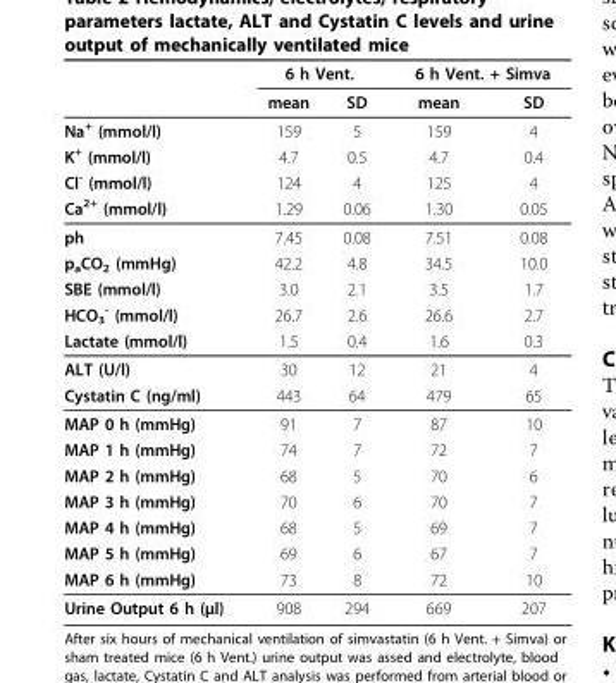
<table><thead><tr><td rowspan="2"></td><td colspan="2">6 h Vent.</td><td colspan="2">6 h Vent. + Simva</td></tr><tr><td>mean</td><td>SD</td><td>mean</td><td>SD</td></tr></thead><tbody><tr><td>Na<sup>+</sup> (mmol/l)</td><td>159</td><td>5</td><td>159</td><td>4</td></tr><tr><td>K<sup>+</sup> (mmol/l)</td><td>4.7</td><td>0.5</td><td>4.7</td><td>0.4</td></tr><tr><td>Cl<sup>-</sup> (mmol/l)</td><td>124</td><td>4</td><td>125</td><td>4</td></tr><tr><td>Ca<sup>2+</sup> (mmol/l)</td><td>1.29</td><td>0.06</td><td>1.30</td><td>0.05</td></tr><tr><td>ph</td><td>7.45</td><td>0.08</td><td>7.51</td><td>0.08</td></tr><tr><td>p<sub>a</sub>CO<sub>2</sub> (mmHg)</td><td>42.2</td><td>4.8</td><td>34.5</td><td>10.0</td></tr><tr><td>SBE (mmol/l)</td><td>3.0</td><td>2.1</td><td>3.5</td><td>1.7</td></tr><tr><td>HCO<sub>3</sub> <sup>-</sup> (mmol/l)</td><td>26.7</td><td>2.6</td><td>26.6</td><td>2.7</td></tr><tr><td>Lactate (mmol/l)</td><td>1.5</td><td>0.4</td><td>1.6</td><td>0.3</td></tr><tr><td>ALT (U/l)</td><td>30</td><td>12</td><td>21</td><td>4</td></tr><tr><td>Cystatin C (ng/ml)</td><td>443</td><td>64</td><td>479</td><td>65</td></tr><tr><td>MAP 0 h (mmHg)</td><td>91</td><td>7</td><td>87</td><td>10</td></tr><tr><td>MAP 1 h (mmHg)</td><td>74</td><td>7</td><td>72</td><td>7</td></tr><tr><td>MAP 2 h (mmHg)</td><td>68</td><td>5</td><td>70</td><td>6</td></tr><tr><td>MAP 3 h (mmHg)</td><td>70</td><td>6</td><td>70</td><td>7</td></tr><tr><td>MAP 4 h (mmHg)</td><td>68</td><td>5</td><td>69</td><td>7</td></tr><tr><td>MAP 5 h (mmHg)</td><td>69</td><td>6</td><td>67</td><td>7</td></tr><tr><td>MAP 6 h (mmHg)</td><td>73</td><td>8</td><td>72</td><td>10</td></tr><tr><td>Urine Output 6 h (μl)</td><td>908</td><td>294</td><td>669</td><td>207</td></tr></tbody></table>